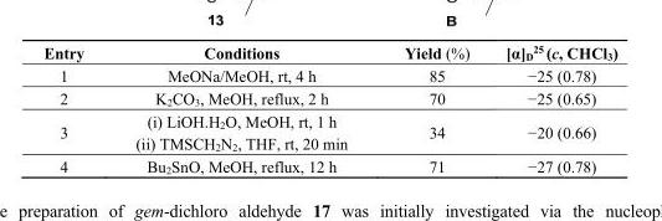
<table><thead><tr><td>Entry</td><td>Conditions</td><td>Yield (%)</td><td>[α]<sub>D</sub><sup>25</sup> (c, CHCl<sub>3</sub>)</td></tr></thead><tbody><tr><td>1</td><td>MeONa/MeOH, rt, 4 h</td><td>85</td><td>−25 (0.78)</td></tr><tr><td>2</td><td>K<sub>2</sub>CO<sub>3</sub>, MeOH, reflux, 2 h</td><td>70</td><td>−25 (0.65)</td></tr><tr><td>3</td><td>(i) LiOH.H<sub>2</sub>O, MeOH, rt, 1 h (ii) TMSCH<sub>2</sub>N<sub>2</sub>, THF, rt, 20 min</td><td>34</td><td>−20 (0.66)</td></tr><tr><td>4</td><td>Bu<sub>2</sub>SnO, MeOH, reflux, 12 h</td><td>71</td><td>−27 (0.78)</td></tr></tbody></table>